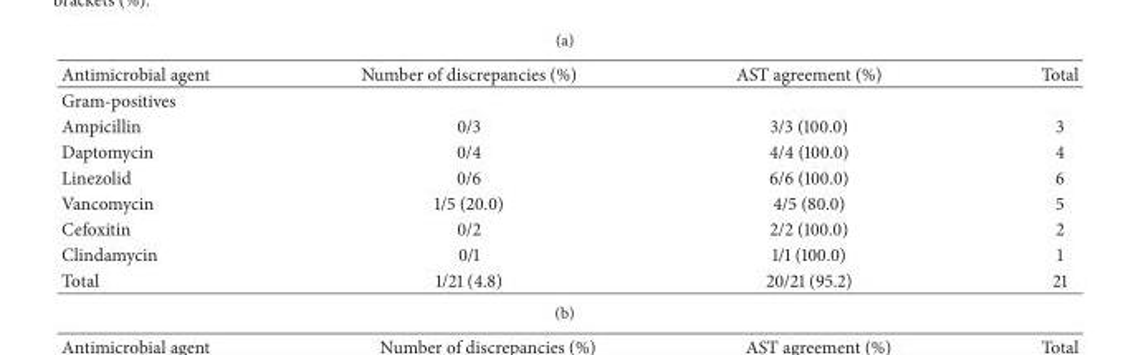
<table><thead><tr><td>Antimicrobial agent</td><td>Number of discrepancies (%)</td><td>AST agreement (%)</td><td>Total</td></tr></thead><tbody><tr><td colspan="4">Gram-positives</td></tr><tr><td>Ampicillin</td><td>0/3</td><td>3/3 (100.0)</td><td>3</td></tr><tr><td>Daptomycin</td><td>0/4</td><td>4/4 (100.0)</td><td>4</td></tr><tr><td>Linezolid</td><td>0/6</td><td>6/6 (100.0)</td><td>6</td></tr><tr><td>Vancomycin</td><td>1/5 (20.0)</td><td>4/5 (80.0)</td><td>5</td></tr><tr><td>Cefoxitin</td><td>0/2</td><td>2/2 (100.0)</td><td>2</td></tr><tr><td>Clindamycin</td><td>0/1</td><td>1/1 (100.0)</td><td>1</td></tr><tr><td>Total</td><td>1/21 (4.8)</td><td>20/21 (95.2)</td><td>21</td></tr></tbody></table>